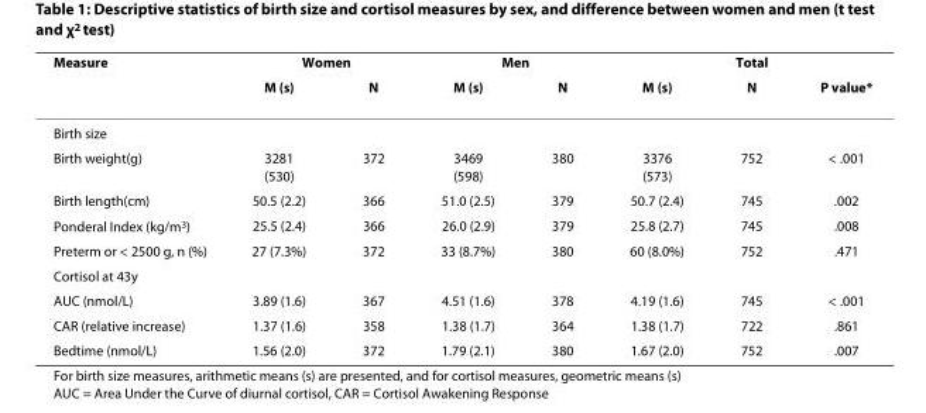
<table><thead><tr><td rowspan="2">Measure</td><td colspan="2">Women</td><td colspan="2">Men</td><td colspan="3">Total</td></tr><tr><td>M (s)</td><td>N</td><td>M (s)</td><td>N</td><td>M (s)</td><td>N</td><td>P value*</td></tr></thead><tbody><tr><td colspan="8">Birth size</td></tr><tr><td>Birth weight(g)</td><td>3281 (530)</td><td>372</td><td>3469 (598)</td><td>380</td><td>3376 (573)</td><td>752</td><td>&lt; .001</td></tr><tr><td>Birth length(cm)</td><td>50.5 (2.2)</td><td>366</td><td>51.0 (2.5)</td><td>379</td><td>50.7 (2.4)</td><td>745</td><td>.002</td></tr><tr><td>Ponderal Index (kg/m<sup>3</sup>)</td><td>25.5 (2.4)</td><td>366</td><td>26.0 (2.9)</td><td>379</td><td>25.8 (2.7)</td><td>745</td><td>.008</td></tr><tr><td>Preterm or &lt; 2500 g, n (%)</td><td>27 (7.3%)</td><td>372</td><td>33 (8.7%)</td><td>380</td><td>60 (8.0%)</td><td>752</td><td>.471</td></tr><tr><td colspan="8">Cortisol at 43y</td></tr><tr><td>AUC (nmol/L)</td><td>3.89 (1.6)</td><td>367</td><td>4.51 (1.6)</td><td>378</td><td>4.19 (1.6)</td><td>745</td><td>&lt; .001</td></tr><tr><td>CAR (relative increase)</td><td>1.37 (1.6)</td><td>358</td><td>1.38 (1.7)</td><td>364</td><td>1.38 (1.7)</td><td>722</td><td>.861</td></tr><tr><td>Bedtime (nmol/L)</td><td>1.56 (2.0)</td><td>372</td><td>1.79 (2.1)</td><td>380</td><td>1.67 (2.0)</td><td>752</td><td>.007</td></tr></tbody></table>